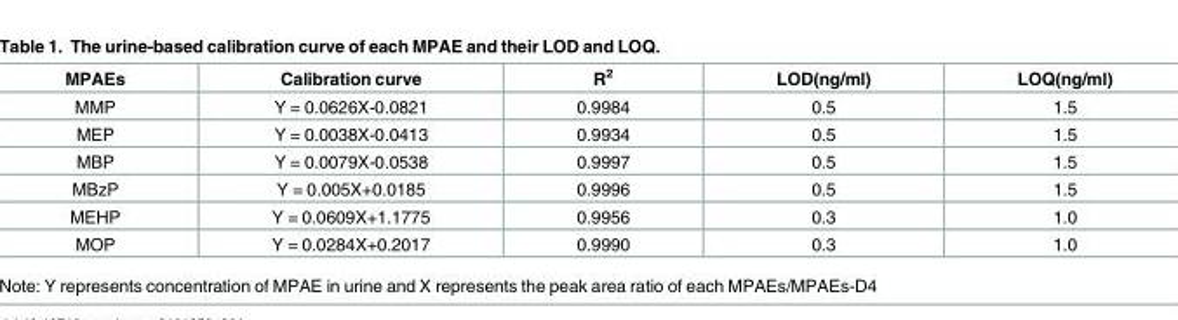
<table><thead><tr><td>MPAEs</td><td>Calibration curve</td><td>R<sup>2</sup></td><td>LOD(ng/ml)</td><td>LOQ(ng/ml)</td></tr></thead><tbody><tr><td>MMP</td><td>Y = 0.0626X-0.0821</td><td>0.9984</td><td>0.5</td><td>1.5</td></tr><tr><td>MEP</td><td>Y = 0.0038X-0.0413</td><td>0.9934</td><td>0.5</td><td>1.5</td></tr><tr><td>MBP</td><td>Y = 0.0079X-0.0538</td><td>0.9997</td><td>0.5</td><td>1.5</td></tr><tr><td>MBzP</td><td>Y = 0.005X+0.0185</td><td>0.9996</td><td>0.5</td><td>1.5</td></tr><tr><td>MEHP</td><td>Y = 0.0609X+1.1775</td><td>0.9956</td><td>0.3</td><td>1.0</td></tr><tr><td>MOP</td><td>Y = 0.0284X+0.2017</td><td>0.9990</td><td>0.3</td><td>1.0</td></tr></tbody></table>